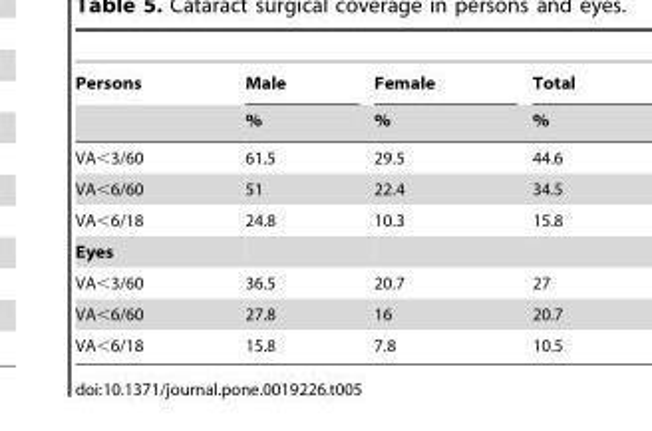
<table><thead><tr><td rowspan="2">Persons</td><td rowspan="2">Male %</td><td rowspan="2">Female %</td><td rowspan="2">Total %</td></tr><tr></tr></thead><tbody><tr><td>VA&lt;3/60</td><td>61.5</td><td>29.5</td><td>44.6</td></tr><tr><td>VA&lt;6/60</td><td>51</td><td>22.4</td><td>34.5</td></tr><tr><td>VA&lt;6/18</td><td>24.8</td><td>10.3</td><td>15.8</td></tr><tr><td colspan="4">Eyes</td></tr><tr><td>VA&lt;3/60</td><td>36.5</td><td>20.7</td><td>27</td></tr><tr><td>VA&lt;6/60</td><td>27.8</td><td>16</td><td>20.7</td></tr><tr><td>VA&lt;6/18</td><td>15.8</td><td>7.8</td><td>10.5</td></tr></tbody></table>